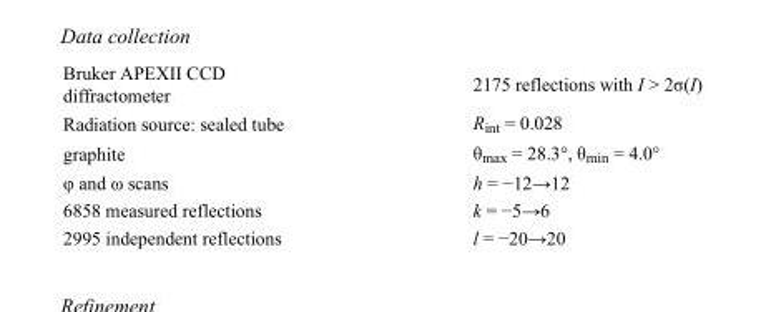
<table><tbody><tr><td>Bruker APEXII CCD diffractometer</td><td>2175 reflections with I &gt; 2σ(I)</td></tr><tr><td>Radiation source: sealed tube</td><td>R<sub>int</sub> = 0.028</td></tr><tr><td>graphite</td><td>θ<sub>max</sub> = 28.3°, θ<sub>min</sub> = 4.0°</td></tr><tr><td>φ and ω scans</td><td>h = −12→12</td></tr><tr><td>6858 measured reflections</td><td>k = −5→6</td></tr><tr><td>2995 independent reflections</td><td>l = −20→20</td></tr></tbody></table>